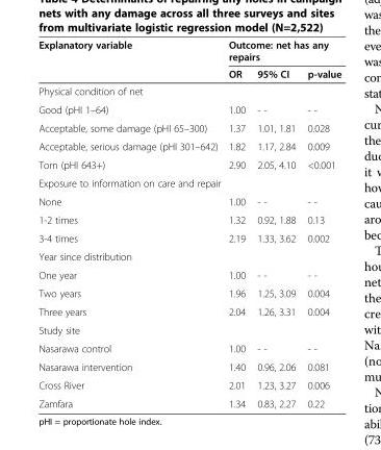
<table><thead><tr><td rowspan="2">Explanatory variable</td><td colspan="3">Outcome: net has any repairs</td></tr><tr><td>OR</td><td>95% CI</td><td>p-value</td></tr></thead><tbody><tr><td colspan="4">Physical condition of net</td></tr><tr><td>Good (pHI 1–64)</td><td>1.00</td><td>- -</td><td>- -</td></tr><tr><td>Acceptable, some damage (pHI 65–300)</td><td>1.37</td><td>1.01, 1.81</td><td>0.028</td></tr><tr><td>Acceptable, serious damage (pHI 301–642)</td><td>1.82</td><td>1.17, 2.84</td><td>0.009</td></tr><tr><td>Torn (pHI 643+)</td><td>2.90</td><td>2.05, 4.10</td><td>&lt;0.001</td></tr><tr><td colspan="4">Exposure to information on care and repair</td></tr><tr><td>None</td><td>1.00</td><td>- -</td><td>- -</td></tr><tr><td>1-2 times</td><td>1.32</td><td>0.92, 1.88</td><td>0.13</td></tr><tr><td>3-4 times</td><td>2.19</td><td>1.33, 3.62</td><td>0.002</td></tr><tr><td colspan="4">Year since distribution</td></tr><tr><td>One year</td><td>1.00</td><td>- -</td><td>- -</td></tr><tr><td>Two years</td><td>1.96</td><td>1.25, 3.09</td><td>0.004</td></tr><tr><td>Three years</td><td>2.04</td><td>1.26, 3.31</td><td>0.004</td></tr><tr><td colspan="4">Study site</td></tr><tr><td>Nasarawa control</td><td>1.00</td><td>- -</td><td>- -</td></tr><tr><td>Nasarawa intervention</td><td>1.40</td><td>0.96, 2.06</td><td>0.081</td></tr><tr><td>Cross River</td><td>2.01</td><td>1.23, 3.27</td><td>0.006</td></tr><tr><td>Zamfara</td><td>1.34</td><td>0.83, 2.27</td><td>0.22</td></tr></tbody></table>